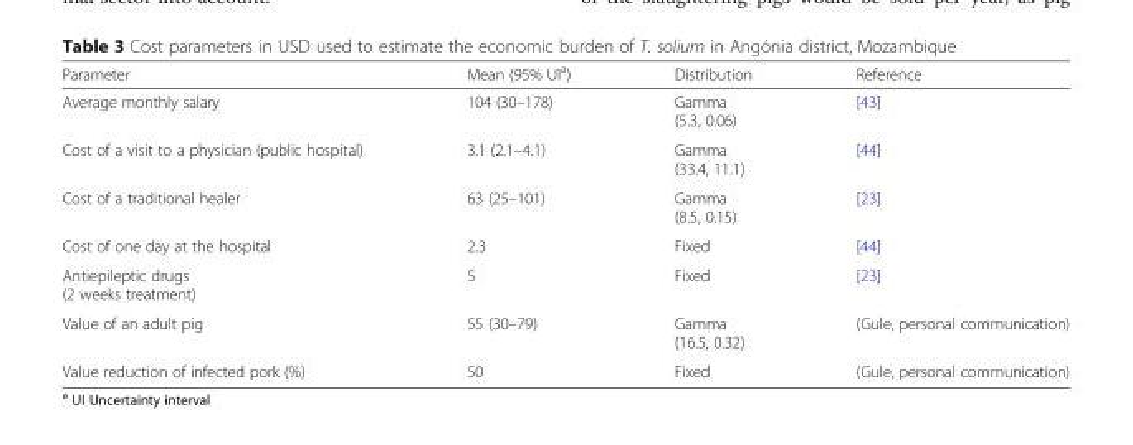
<table><thead><tr><td>Parameter</td><td>Mean (95% UI<sup>a</sup>)</td><td>Distribution</td><td>Reference</td></tr></thead><tbody><tr><td>Average monthly salary</td><td>104 (30–178)</td><td>Gamma (5.3, 0.06)</td><td>[43]</td></tr><tr><td>Cost of a visit to a physician (public hospital)</td><td>3.1 (2.1–4.1)</td><td>Gamma (33.4, 11.1)</td><td>[44]</td></tr><tr><td>Cost of a traditional healer</td><td>63 (25–101)</td><td>Gamma (8.5, 0.15)</td><td>[23]</td></tr><tr><td>Cost of one day at the hospital</td><td>2.3</td><td>Fixed</td><td>[44]</td></tr><tr><td>Antiepileptic drugs (2 weeks treatment)</td><td>5</td><td>Fixed</td><td>[23]</td></tr><tr><td>Value of an adult pig</td><td>55 (30–79)</td><td>Gamma (16.5, 0.32)</td><td>(Gule, personal communication)</td></tr><tr><td>Value reduction of infected pork (%)</td><td>50</td><td>Fixed</td><td>(Gule, personal communication)</td></tr></tbody></table>